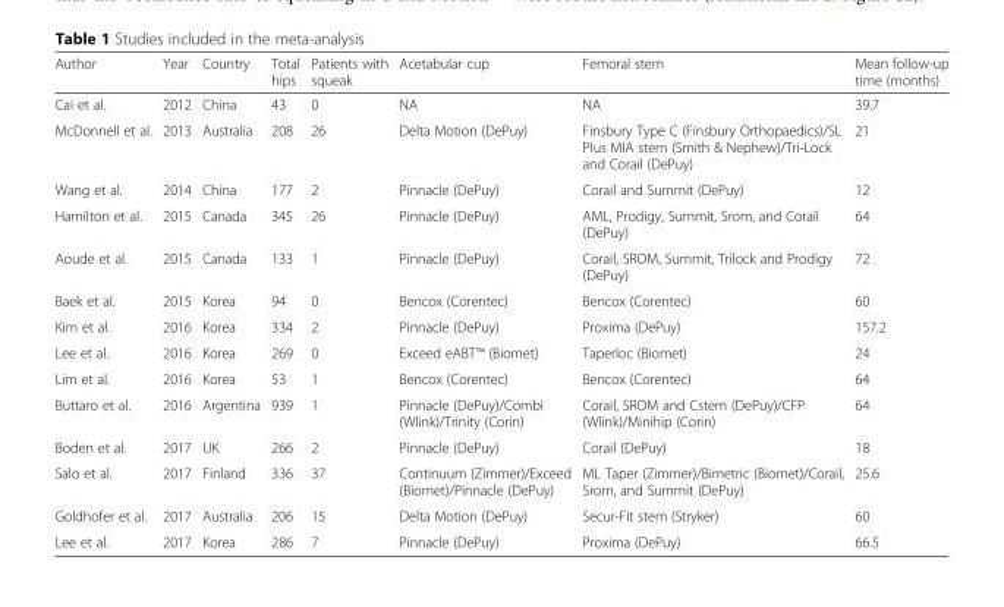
<table><thead><tr><td>Author</td><td>Year</td><td>Country</td><td>Total hips</td><td>Patients with squeak</td><td>Acetabular cup</td><td>Femoral stem</td><td>Mean follow-up time (months)</td></tr></thead><tbody><tr><td>Cai et al.</td><td>2012</td><td>China</td><td>43</td><td>0</td><td>NA</td><td>NA</td><td>39.7</td></tr><tr><td>McDonnell et al.</td><td>2013</td><td>Australia</td><td>208</td><td>26</td><td>Delta Motion (DePuy)</td><td>Finsbury Type C (Finsbury Orthopaedics)/SL Plus MIA stem (Smith &amp; Nephew)/Tri-Lock and Corail (DePuy)</td><td>21</td></tr><tr><td>Wang et al.</td><td>2014</td><td>China</td><td>177</td><td>2</td><td>Pinnacle (DePuy)</td><td>Corail and Summit (DePuy)</td><td>12</td></tr><tr><td>Hamilton et al.</td><td>2015</td><td>Canada</td><td>345</td><td>26</td><td>Pinnacle (DePuy)</td><td>AML, Prodigy, Summit, Srom, and Corail (DePuy)</td><td>64</td></tr><tr><td>Aoude et al.</td><td>2015</td><td>Canada</td><td>133</td><td>1</td><td>Pinnacle (DePuy)</td><td>Corail, SROM, Summit, Trilock and Prodigy (DePuy)</td><td>72</td></tr><tr><td>Baek et al.</td><td>2015</td><td>Korea</td><td>94</td><td>0</td><td>Bencox (Corentec)</td><td>Bencox (Corentec)</td><td>60</td></tr><tr><td>Kim et al.</td><td>2016</td><td>Korea</td><td>334</td><td>2</td><td>Pinnacle (DePuy)</td><td>Proxima (DePuy)</td><td>157.2</td></tr><tr><td>Lee et al.</td><td>2016</td><td>Korea</td><td>269</td><td>0</td><td>Exceed eABT™ (Biomet)</td><td>Taperloc (Biomet)</td><td>24</td></tr><tr><td>Lim et al.</td><td>2016</td><td>Korea</td><td>53</td><td>1</td><td>Bencox (Corentec)</td><td>Bencox (Corentec)</td><td>64</td></tr><tr><td>Buttaro et al.</td><td>2016</td><td>Argentina</td><td>939</td><td>1</td><td>Pinnacle (DePuy)/Combi (Wlink)/Trinity (Corin)</td><td>Corail, SROM and Cstem (DePuy)/CFP (Wlink)/Minihip (Corin)</td><td>64</td></tr><tr><td>Boden et al.</td><td>2017</td><td>UK</td><td>266</td><td>2</td><td>Pinnacle (DePuy)</td><td>Corail (DePuy)</td><td>18</td></tr><tr><td>Salo et al.</td><td>2017</td><td>Finland</td><td>336</td><td>37</td><td>Continuum (Zimmer)/Exceed (Biomet)/Pinnacle (DePuy)</td><td>ML Taper (Zimmer)/Bimetric (Biomet)/Corail, Srom, and Summit (DePuy)</td><td>25.6</td></tr><tr><td>Goldhofer et al.</td><td>2017</td><td>Australia</td><td>206</td><td>15</td><td>Delta Motion (DePuy)</td><td>Secur-Fit stem (Stryker)</td><td>60</td></tr><tr><td>Lee et al.</td><td>2017</td><td>Korea</td><td>286</td><td>7</td><td>Pinnacle (DePuy)</td><td>Proxima (DePuy)</td><td>66.5</td></tr></tbody></table>